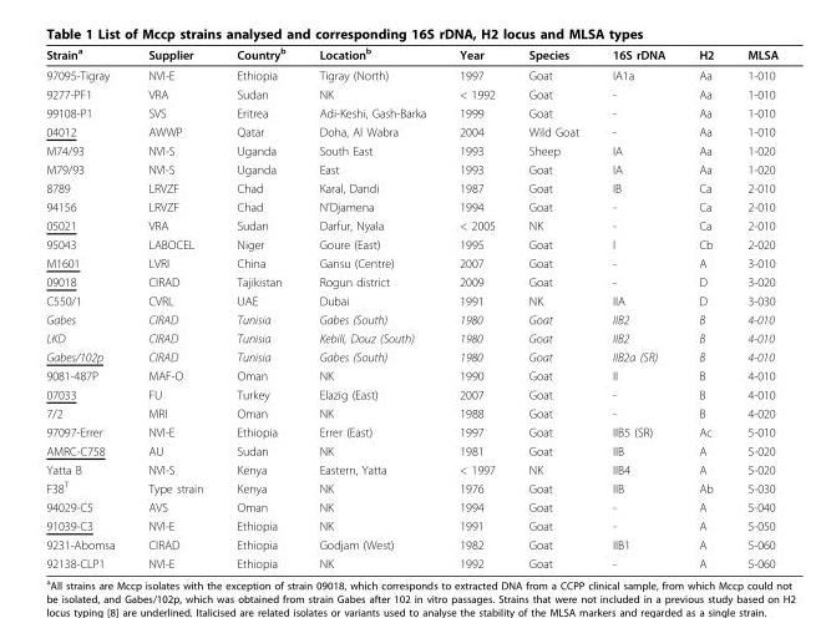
<table><thead><tr><td>Strain<sup>a</sup></td><td>Supplier</td><td>Country<sup>b</sup></td><td>Location<sup>b</sup></td><td>Year</td><td>Species</td><td>16S rDNA</td><td>H2</td><td>MLSA</td></tr></thead><tbody><tr><td>97095-Tigray</td><td>NVI-E</td><td>Ethiopia</td><td>Tigray (North)</td><td>1997</td><td>Goat</td><td>IA1a</td><td>Aa</td><td>1-010</td></tr><tr><td>9277-PF1</td><td>VRA</td><td>Sudan</td><td>NK</td><td>&lt; 1992</td><td>Goat</td><td>-</td><td>Aa</td><td>1-010</td></tr><tr><td>99108-P1</td><td>SVS</td><td>Eritrea</td><td>Adi-Keshi, Gash-Barka</td><td>1999</td><td>Goat</td><td>-</td><td>Aa</td><td>1-010</td></tr><tr><td>04012</td><td>AWWP</td><td>Qatar</td><td>Doha, Al Wabra</td><td>2004</td><td>Wild Goat</td><td>-</td><td>Aa</td><td>1-010</td></tr><tr><td>M74/93</td><td>NVI-S</td><td>Uganda</td><td>South East</td><td>1993</td><td>Sheep</td><td>IA</td><td>Aa</td><td>1-020</td></tr><tr><td>M79/93</td><td>NVI-S</td><td>Uganda</td><td>East</td><td>1993</td><td>Goat</td><td>IA</td><td>Aa</td><td>1-020</td></tr><tr><td>8789</td><td>LRVZF</td><td>Chad</td><td>Karal, Dandi</td><td>1987</td><td>Goat</td><td>IB</td><td>Ca</td><td>2-010</td></tr><tr><td>94156</td><td>LRVZF</td><td>Chad</td><td>N’Djamena</td><td>1994</td><td>Goat</td><td>-</td><td>Ca</td><td>2-010</td></tr><tr><td>05021</td><td>VRA</td><td>Sudan</td><td>Darfur, Nyala</td><td>&lt; 2005</td><td>NK</td><td>-</td><td>Ca</td><td>2-010</td></tr><tr><td>95043</td><td>LABOCEL</td><td>Niger</td><td>Goure (East)</td><td>1995</td><td>Goat</td><td>I</td><td>Cb</td><td>2-020</td></tr><tr><td>M1601</td><td>LVRI</td><td>China</td><td>Gansu (Centre)</td><td>2007</td><td>Goat</td><td>-</td><td>A</td><td>3-010</td></tr><tr><td>09018</td><td>CIRAD</td><td>Tajikistan</td><td>Rogun district</td><td>2009</td><td>Goat</td><td>-</td><td>D</td><td>3-020</td></tr><tr><td>C550/1</td><td>CVRL</td><td>UAE</td><td>Dubai</td><td>1991</td><td>NK</td><td>IIA</td><td>D</td><td>3-030</td></tr><tr><td>Gabes</td><td>CIRAD</td><td>Tunisia</td><td>Gabes (South)</td><td>1980</td><td>Goat</td><td>IIB2</td><td>B</td><td>4-010</td></tr><tr><td>LKD</td><td>CIRAD</td><td>Tunisia</td><td>Kebili, Douz (South)</td><td>1980</td><td>Goat</td><td>IIB2</td><td>B</td><td>4-010</td></tr><tr><td>Gabes/102p</td><td>CIRAD</td><td>Tunisia</td><td>Gabes (South)</td><td>1980</td><td>Goat</td><td>IIB2a (SR)</td><td>B</td><td>4-010</td></tr><tr><td>9081-487P</td><td>MAF-O</td><td>Oman</td><td>NK</td><td>1990</td><td>Goat</td><td>II</td><td>B</td><td>4-010</td></tr><tr><td>07033</td><td>FU</td><td>Turkey</td><td>Elazig (East)</td><td>2007</td><td>Goat</td><td>-</td><td>B</td><td>4-010</td></tr><tr><td>7/2</td><td>MRI</td><td>Oman</td><td>NK</td><td>1988</td><td>Goat</td><td>-</td><td>B</td><td>4-020</td></tr><tr><td>97097-Errer</td><td>NVI-E</td><td>Ethiopia</td><td>Errer (East)</td><td>1997</td><td>Goat</td><td>IIB5 (SR)</td><td>Ac</td><td>5-010</td></tr><tr><td>AMRC-C758</td><td>AU</td><td>Sudan</td><td>NK</td><td>1981</td><td>Goat</td><td>IIB</td><td>A</td><td>5-020</td></tr><tr><td>Yatta B</td><td>NVI-S</td><td>Kenya</td><td>Eastern, Yatta</td><td>&lt; 1997</td><td>NK</td><td>IIB4</td><td>A</td><td>5-020</td></tr><tr><td>F38<sup>T</sup></td><td>Type strain</td><td>Kenya</td><td>NK</td><td>1976</td><td>Goat</td><td>IIB</td><td>Ab</td><td>5-030</td></tr><tr><td>94029-C5</td><td>AVS</td><td>Oman</td><td>NK</td><td>1994</td><td>Goat</td><td>-</td><td>A</td><td>5-040</td></tr><tr><td>91039-C3</td><td>NVI-E</td><td>Ethiopia</td><td>NK</td><td>1991</td><td>Goat</td><td>-</td><td>A</td><td>5-050</td></tr><tr><td>9231-Abomsa</td><td>CIRAD</td><td>Ethiopia</td><td>Godjam (West)</td><td>1982</td><td>Goat</td><td>IIB1</td><td>A</td><td>5-060</td></tr><tr><td>92138-CLP1</td><td>NVI-E</td><td>Ethiopia</td><td>NK</td><td>1992</td><td>Goat</td><td>-</td><td>A</td><td>5-060</td></tr></tbody></table>